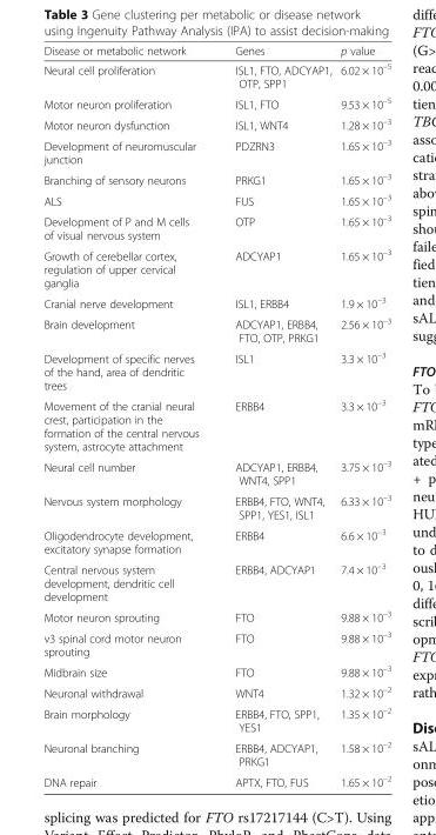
<table><thead><tr><td>Disease or metabolic network</td><td>Genes</td><td>p value</td></tr></thead><tbody><tr><td>Neural cell proliferation</td><td>ISL1, FTO, ADCYAP1, ΟΤΡ, SPP1</td><td>6.02 × 10<sup>–5</sup></td></tr><tr><td>Motor neuron proliferation</td><td>ISL1, FTO</td><td>9.53 × 10<sup>–5</sup></td></tr><tr><td>Motor neuron dysfunction</td><td>ISL1, WNT4</td><td>1.28 × 10<sup>–3</sup></td></tr><tr><td>Development of neuromuscular junction</td><td>PDZRN3</td><td>1.65 × 10<sup>–3</sup></td></tr><tr><td>Branching of sensory neurons</td><td>PRKG1</td><td>1.65 × 10<sup>–3</sup></td></tr><tr><td>ALS</td><td>FUS</td><td>1.65 × 10<sup>–3</sup></td></tr><tr><td>Development of P and M cells of visual nervous system</td><td>ΟΤΡ</td><td>1.65 × 10<sup>–3</sup></td></tr><tr><td>Growth of cerebellar cortex, regulation of upper cervical ganglia</td><td>ADCYAP1</td><td>1.65 × 10<sup>–3</sup></td></tr><tr><td>Cranial nerve development</td><td>ISL1, ERBB4</td><td>1.9 × 10<sup>–3</sup></td></tr><tr><td>Brain development</td><td>ADCYAP1, ERBB4, FTO, ΟΤΡ, PRKG1</td><td>2.56 × 10<sup>–3</sup></td></tr><tr><td>Development of specific nerves of the hand, area of dendritic trees</td><td>ISL1</td><td>3.3 × 10<sup>–3</sup></td></tr><tr><td>Movement of the cranial neural crest, participation in the formation of the central nervous system, astrocyte attachment</td><td>ERBB4</td><td>3.3 × 10<sup>–3</sup></td></tr><tr><td>Neural cell number</td><td>ADCYAP1, ERBB4, WNT4, SPP1</td><td>3.75 × 10<sup>–3</sup></td></tr><tr><td>Nervous system morphology</td><td>ERBB4, FTO, WNT4, SPP1, YES1, ISL1</td><td>6.33 × 10<sup>–3</sup></td></tr><tr><td>Oligodendrocyte development, excitatory synapse formation</td><td>ERBB4</td><td>6.6 × 10<sup>–3</sup></td></tr><tr><td>Central nervous system development, dendritic cell development</td><td>ERBB4, ADCYAP1</td><td>7.4 × 10<sup>–3</sup></td></tr><tr><td>Motor neuron sprouting</td><td>FTO</td><td>9.88 × 10<sup>–3</sup></td></tr><tr><td>v3 spinal cord motor neuron sprouting</td><td>FTO</td><td>9.88 × 10<sup>–3</sup></td></tr><tr><td>Midbrain size</td><td>FTO</td><td>9.88 × 10<sup>–3</sup></td></tr><tr><td>Neuronal withdrawal</td><td>WNT4</td><td>1.32 × 10<sup>–2</sup></td></tr><tr><td>Brain morphology</td><td>ERBB4, FTO, SPP1, YES1</td><td>1.35 × 10<sup>–2</sup></td></tr><tr><td>Neuronal branching</td><td>ERBB4, ADCYAP1, PRKG1</td><td>1.58 × 10<sup>–2</sup></td></tr><tr><td>DNA repair</td><td>APTX, FTO, FUS</td><td>1.65 × 10<sup>–2</sup></td></tr></tbody></table>